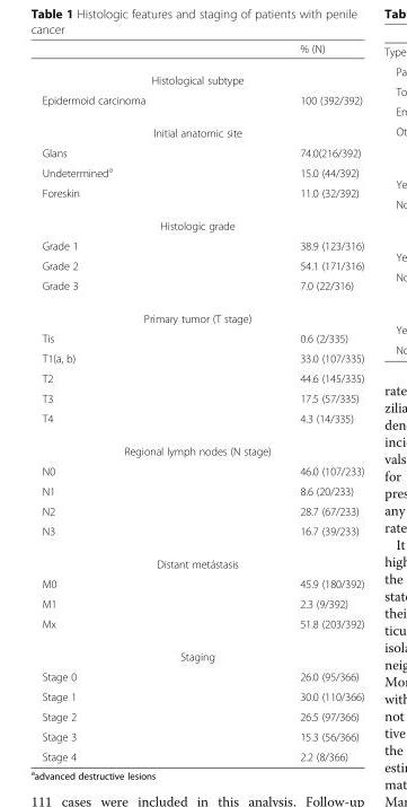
<table><thead><tr><td></td><td>% (N)</td></tr></thead><tbody><tr><td colspan="2">Histological subtype</td></tr><tr><td>Epidermoid carcinoma</td><td>100 (392/392)</td></tr><tr><td colspan="2">Initial anatomic site</td></tr><tr><td>Glans</td><td>74.0(216/392)</td></tr><tr><td>Undetermined<sup>a</sup></td><td>15.0 (44/392)</td></tr><tr><td>Foreskin</td><td>11.0 (32/392)</td></tr><tr><td colspan="2">Histologic grade</td></tr><tr><td>Grade 1</td><td>38.9 (123/316)</td></tr><tr><td>Grade 2</td><td>54.1 (171/316)</td></tr><tr><td>Grade 3</td><td>7.0 (22/316)</td></tr><tr><td colspan="2">Primary tumor (T stage)</td></tr><tr><td>Tis</td><td>0.6 (2/335)</td></tr><tr><td>T1(a, b)</td><td>33.0 (107/335)</td></tr><tr><td>T2</td><td>44.6 (145/335)</td></tr><tr><td>T3</td><td>17.5 (57/335)</td></tr><tr><td>T4</td><td>4.3 (14/335)</td></tr><tr><td colspan="2">Regional lymph nodes (N stage)</td></tr><tr><td>N0</td><td>46.0 (107/233)</td></tr><tr><td>N1</td><td>8.6 (20/233)</td></tr><tr><td>N2</td><td>28.7 (67/233)</td></tr><tr><td>N3</td><td>16.7 (39/233)</td></tr><tr><td colspan="2">Distant metástasis</td></tr><tr><td>M0</td><td>45.9 (180/392)</td></tr><tr><td>M1</td><td>2.3 (9/392)</td></tr><tr><td>Mx</td><td>51.8 (203/392)</td></tr><tr><td colspan="2">Staging</td></tr><tr><td>Stage 0</td><td>26.0 (95/366)</td></tr><tr><td>Stage 1</td><td>30.0 (110/366)</td></tr><tr><td>Stage 2</td><td>26.5 (97/366)</td></tr><tr><td>Stage 3</td><td>15.3 (56/366)</td></tr><tr><td>Stage 4</td><td>2.2 (8/366)</td></tr></tbody></table>